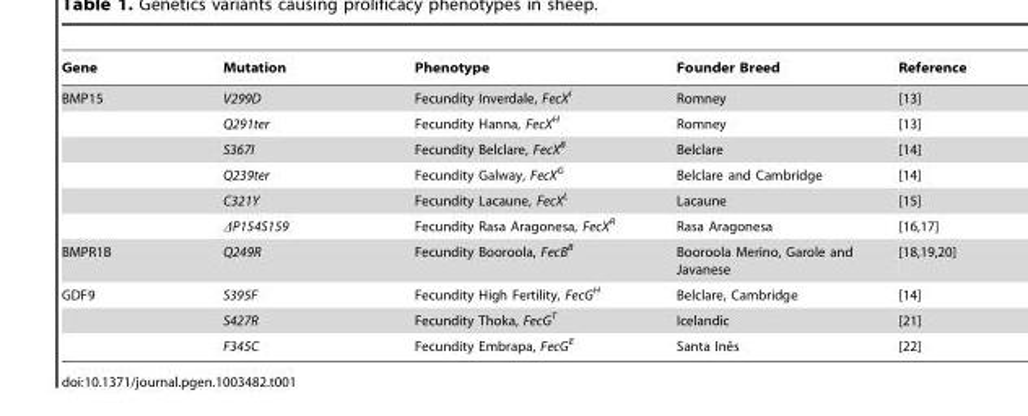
<table><thead><tr><td>Gene</td><td>Mutation</td><td>Phenotype</td><td>Founder Breed</td><td>Reference</td></tr></thead><tbody><tr><td rowspan="6">BMP15</td><td>V299D</td><td>Fecundity Inverdale, FecX<sup>I</sup></td><td>Romney</td><td>[13]</td></tr><tr><td>Q291ter</td><td>Fecundity Hanna, FecX<sup>H</sup></td><td>Romney</td><td>[13]</td></tr><tr><td>S367I</td><td>Fecundity Belclare, FecX<sup>B</sup></td><td>Belclare</td><td>[14]</td></tr><tr><td>Q239ter</td><td>Fecundity Galway, FecX<sup>G</sup></td><td>Belclare and Cambridge</td><td>[14]</td></tr><tr><td>C321Y</td><td>Fecundity Lacaune, FecX<sup>L</sup></td><td>Lacaune</td><td>[15]</td></tr><tr><td>ΔP154S159</td><td>Fecundity Rasa Aragonesa, FecX<sup>R</sup></td><td>Rasa Aragonesa</td><td>[16,17]</td></tr><tr><td>BMPR1B</td><td>Q249R</td><td>Fecundity Booroola, FecB<sup>B</sup></td><td>Booroola Merino, Garole and Javanese</td><td>[18,19,20]</td></tr><tr><td rowspan="3">GDF9</td><td>S395F</td><td>Fecundity High Fertility, FecG<sup>H</sup></td><td>Belclare, Cambridge</td><td>[14]</td></tr><tr><td>S427R</td><td>Fecundity Thoka, FecG<sup>T</sup></td><td>Icelandic</td><td>[21]</td></tr><tr><td>F345C</td><td>Fecundity Embrapa, FecG<sup>E</sup></td><td>Santa Ineˆs</td><td>[22]</td></tr></tbody></table>